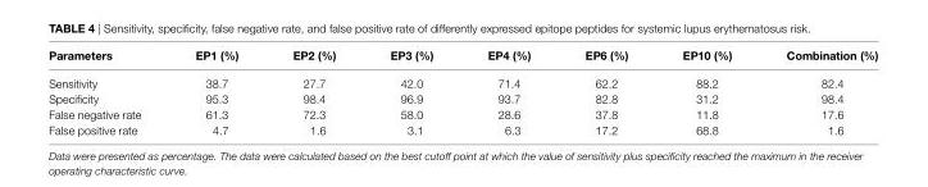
<table><thead><tr><td>Parameters</td><td>eP1 (%)</td><td>eP2 (%)</td><td>eP3 (%)</td><td>eP4 (%)</td><td>eP6 (%)</td><td>eP10 (%)</td><td>combination (%)</td></tr></thead><tbody><tr><td>Sensitivity</td><td>38.7</td><td>27.7</td><td>42.0</td><td>71.4</td><td>62.2</td><td>88.2</td><td>82.4</td></tr><tr><td>Specificity</td><td>95.3</td><td>98.4</td><td>96.9</td><td>93.7</td><td>82.8</td><td>31.2</td><td>98.4</td></tr><tr><td>False negative rate</td><td>61.3</td><td>72.3</td><td>58.0</td><td>28.6</td><td>37.8</td><td>11.8</td><td>17.6</td></tr><tr><td>False positive rate</td><td>4.7</td><td>1.6</td><td>3.1</td><td>6.3</td><td>17.2</td><td>68.8</td><td>1.6</td></tr></tbody></table>